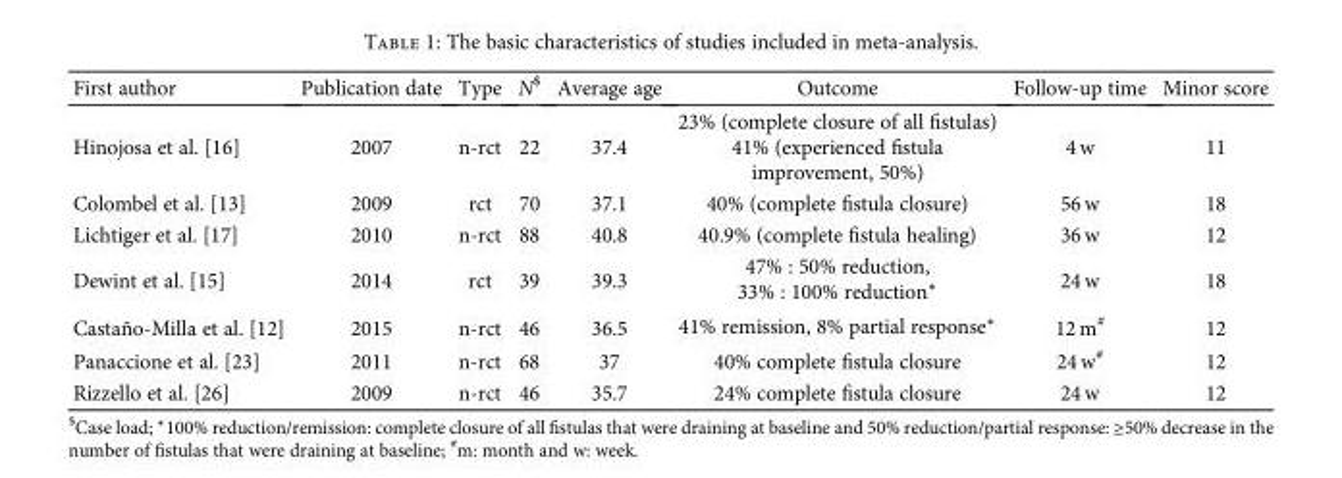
<table><thead><tr><td>First author</td><td>Publication date</td><td>Type</td><td>N<sup>$</sup></td><td>Average age</td><td>Outcome</td><td>Follow-up time</td><td>Minor score</td></tr></thead><tbody><tr><td>Hinojosa et al. [16]</td><td>2007</td><td>n-rct</td><td>22</td><td>37.4</td><td>23% (complete closure of all fistulas) 41% (experienced fistula improvement, 50%)</td><td>4 w</td><td>11</td></tr><tr><td>Colombel et al. [13]</td><td>2009</td><td>rct</td><td>70</td><td>37.1</td><td>40% (complete fistula closure)</td><td>56 w</td><td>18</td></tr><tr><td>Lichtiger et al. [17]</td><td>2010</td><td>n-rct</td><td>88</td><td>40.8</td><td>40.9% (complete fistula healing)</td><td>36 w</td><td>12</td></tr><tr><td>Dewint et al. [15]</td><td>2014</td><td>rct</td><td>39</td><td>39.3</td><td>47% : 50% reduction, 33% : 100% reduction∗</td><td>24 w</td><td>18</td></tr><tr><td>Castaño-Milla et al. [12]</td><td>2015</td><td>n-rct</td><td>46</td><td>36.5</td><td>41% remission, 8% partial response∗</td><td>12 m<sup>#</sup></td><td>12</td></tr><tr><td>Panaccione et al. [23]</td><td>2011</td><td>n-rct</td><td>68</td><td>37</td><td>40% complete fistula closure</td><td>24 w<sup>#</sup></td><td>12</td></tr><tr><td>Rizzello et al. [26]</td><td>2009</td><td>n-rct</td><td>46</td><td>35.7</td><td>24% complete fistula closure</td><td>24 w</td><td>12</td></tr></tbody></table>